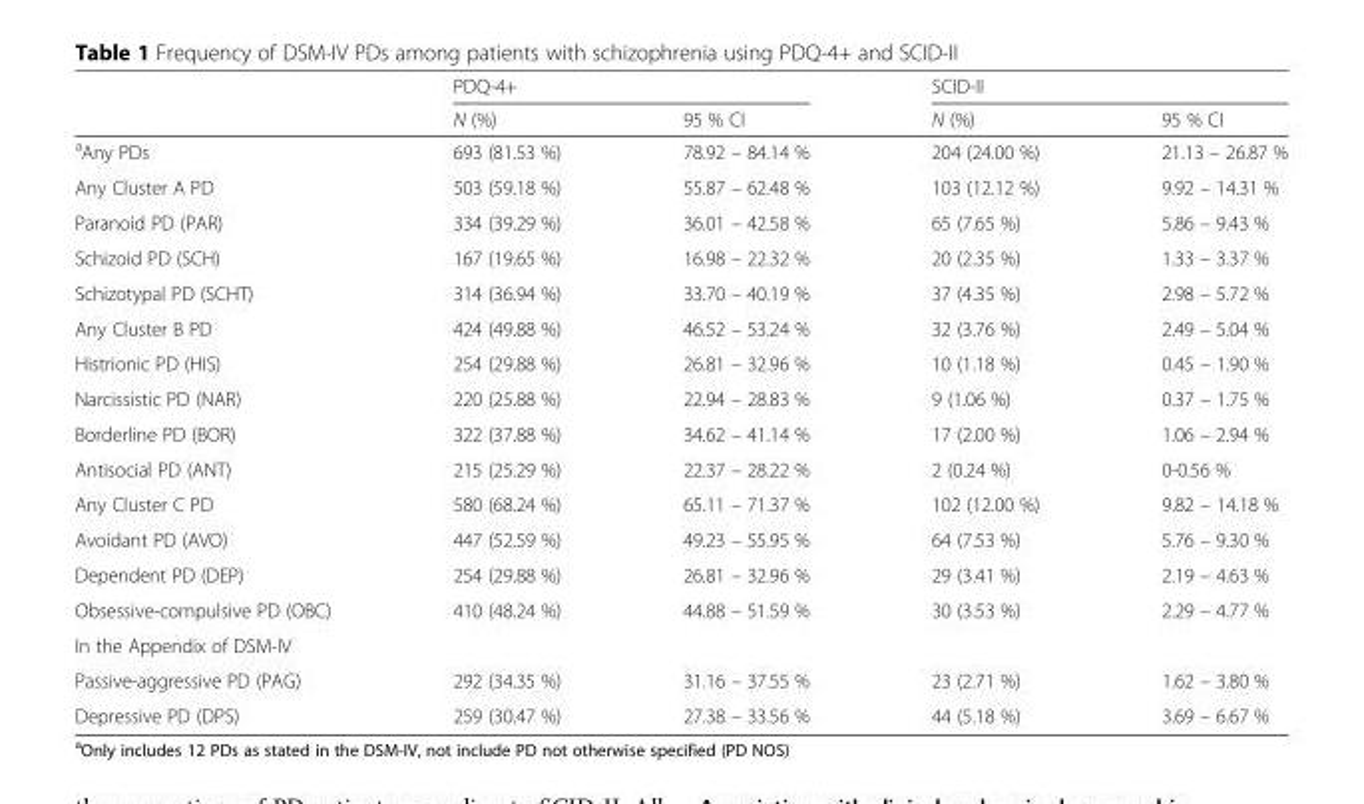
<table><thead><tr><td rowspan="2"></td><td colspan="2">PDQ-4+</td><td colspan="2">SCID-II</td></tr><tr><td>N (%)</td><td>95 % CI</td><td>N (%)</td><td>95 % CI</td></tr></thead><tbody><tr><td><sup>a</sup>Any PDs</td><td>693 (81.53 %)</td><td>78.92 – 84.14 %</td><td>204 (24.00 %)</td><td>21.13 – 26.87 %</td></tr><tr><td>Any Cluster A PD</td><td>503 (59.18 %)</td><td>55.87 – 62.48 %</td><td>103 (12.12 %)</td><td>9.92 – 14.31 %</td></tr><tr><td>Paranoid PD (PAR)</td><td>334 (39.29 %)</td><td>36.01 – 42.58 %</td><td>65 (7.65 %)</td><td>5.86 – 9.43 %</td></tr><tr><td>Schizoid PD (SCH)</td><td>167 (19.65 %)</td><td>16.98 – 22.32 %</td><td>20 (2.35 %)</td><td>1.33 – 3.37 %</td></tr><tr><td>Schizotypal PD (SCHT)</td><td>314 (36.94 %)</td><td>33.70 – 40.19 %</td><td>37 (4.35 %)</td><td>2.98 – 5.72 %</td></tr><tr><td>Any Cluster B PD</td><td>424 (49.88 %)</td><td>46.52 – 53.24 %</td><td>32 (3.76 %)</td><td>2.49 – 5.04 %</td></tr><tr><td>Histrionic PD (HIS)</td><td>254 (29.88 %)</td><td>26.81 – 32.96 %</td><td>10 (1.18 %)</td><td>0.45 – 1.90 %</td></tr><tr><td>Narcissistic PD (NAR)</td><td>220 (25.88 %)</td><td>22.94 – 28.83 %</td><td>9 (1.06 %)</td><td>0.37 – 1.75 %</td></tr><tr><td>Borderline PD (BOR)</td><td>322 (37.88 %)</td><td>34.62 – 41.14 %</td><td>17 (2.00 %)</td><td>1.06 – 2.94 %</td></tr><tr><td>Antisocial PD (ANT)</td><td>215 (25.29 %)</td><td>22.37 – 28.22 %</td><td>2 (0.24 %)</td><td>0-0.56 %</td></tr><tr><td>Any Cluster C PD</td><td>580 (68.24 %)</td><td>65.11 – 71.37 %</td><td>102 (12.00 %)</td><td>9.82 – 14.18 %</td></tr><tr><td>Avoidant PD (AVO)</td><td>447 (52.59 %)</td><td>49.23 – 55.95 %</td><td>64 (7.53 %)</td><td>5.76 – 9.30 %</td></tr><tr><td>Dependent PD (DEP)</td><td>254 (29.88 %)</td><td>26.81 – 32.96 %</td><td>29 (3.41 %)</td><td>2.19 – 4.63 %</td></tr><tr><td>Obsessive-compulsive PD (OBC)</td><td>410 (48.24 %)</td><td>44.88 – 51.59 %</td><td>30 (3.53 %)</td><td>2.29 – 4.77 %</td></tr><tr><td colspan="5">In the Appendix of DSM-IV</td></tr><tr><td>Passive-aggressive PD (PAG)</td><td>292 (34.35 %)</td><td>31.16 – 37.55 %</td><td>23 (2.71 %)</td><td>1.62 – 3.80 %</td></tr><tr><td>Depressive PD (DPS)</td><td>259 (30.47 %)</td><td>27.38 – 33.56 %</td><td>44 (5.18 %)</td><td>3.69 – 6.67 %</td></tr></tbody></table>